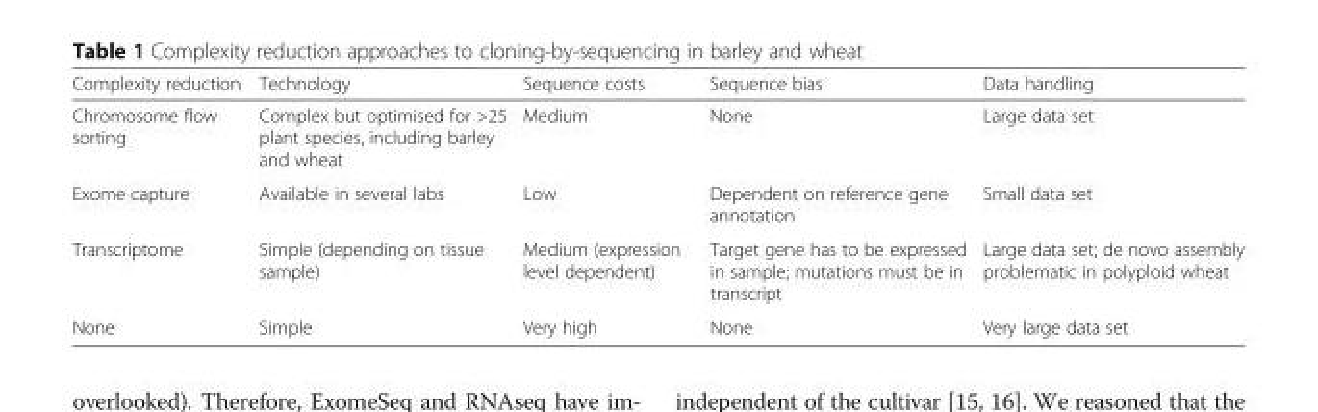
<table><thead><tr><td>Complexity reduction</td><td>Technology</td><td>Sequence costs</td><td>Sequence bias</td><td>Data handling</td></tr></thead><tbody><tr><td>Chromosome flow sorting</td><td>Complex but optimised for &gt;25 plant species, including barley and wheat</td><td>Medium</td><td>None</td><td>Large data set</td></tr><tr><td>Exome capture</td><td>Available in several labs</td><td>Low</td><td>Dependent on reference gene annotation</td><td>Small data set</td></tr><tr><td>Transcriptome</td><td>Simple (depending on tissue sample)</td><td>Medium (expression level dependent)</td><td>Target gene has to be expressed in sample; mutations must be in transcript</td><td>Large data set; de novo assembly problematic in polyploid wheat</td></tr><tr><td>None</td><td>Simple</td><td>Very high</td><td>None</td><td>Very large data set</td></tr></tbody></table>